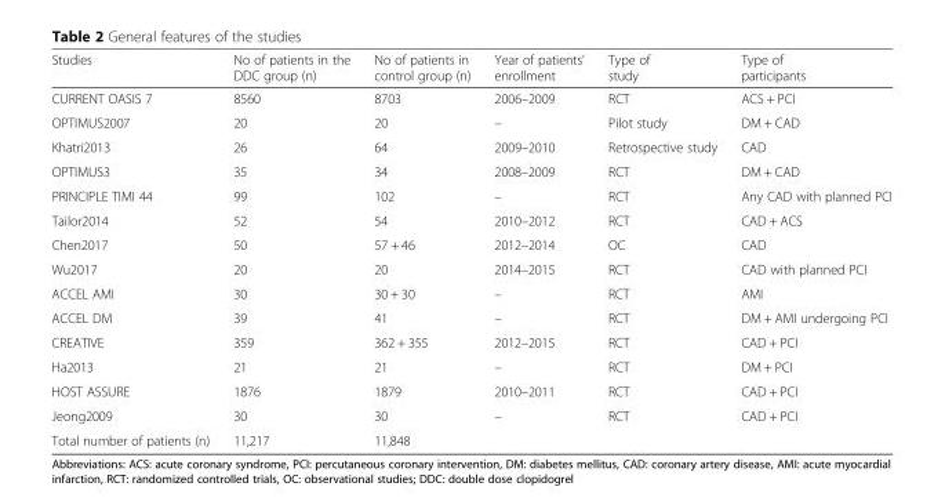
<table><thead><tr><td>Studies</td><td>No of patients in the DDC group (n)</td><td>No of patients in control group (n)</td><td>Year of patients’ enrollment</td><td>Type of study</td><td>Type of participants</td></tr></thead><tbody><tr><td>CURRENT OASIS 7</td><td>8560</td><td>8703</td><td>2006–2009</td><td>RCT</td><td>ACS + PCI</td></tr><tr><td>OPTIMUS2007</td><td>20</td><td>20</td><td>–</td><td>Pilot study</td><td>DM + CAD</td></tr><tr><td>Khatri2013</td><td>26</td><td>64</td><td>2009–2010</td><td>Retrospective study</td><td>CAD</td></tr><tr><td>OPTIMUS3</td><td>35</td><td>34</td><td>2008–2009</td><td>RCT</td><td>DM + CAD</td></tr><tr><td>PRINCIPLE TIMI 44</td><td>99</td><td>102</td><td>–</td><td>RCT</td><td>Any CAD with planned PCI</td></tr><tr><td>Tailor2014</td><td>52</td><td>54</td><td>2010–2012</td><td>RCT</td><td>CAD + ACS</td></tr><tr><td>Chen2017</td><td>50</td><td>57 + 46</td><td>2012–2014</td><td>OC</td><td>CAD</td></tr><tr><td>Wu2017</td><td>20</td><td>20</td><td>2014–2015</td><td>RCT</td><td>CAD with planned PCI</td></tr><tr><td>ACCEL AMI</td><td>30</td><td>30 + 30</td><td>–</td><td>RCT</td><td>AMI</td></tr><tr><td>ACCEL DM</td><td>39</td><td>41</td><td>–</td><td>RCT</td><td>DM + AMI undergoing PCI</td></tr><tr><td>CREATIVE</td><td>359</td><td>362 + 355</td><td>2012–2015</td><td>RCT</td><td>CAD + PCI</td></tr><tr><td>Ha2013</td><td>21</td><td>21</td><td>–</td><td>RCT</td><td>DM + PCI</td></tr><tr><td>HOST ASSURE</td><td>1876</td><td>1879</td><td>2010–2011</td><td>RCT</td><td>CAD + PCI</td></tr><tr><td>Jeong2009</td><td>30</td><td>30</td><td>–</td><td>RCT</td><td>CAD + PCI</td></tr><tr><td>Total number of patients (n)</td><td>11,217</td><td>11,848</td><td></td><td></td><td></td></tr></tbody></table>